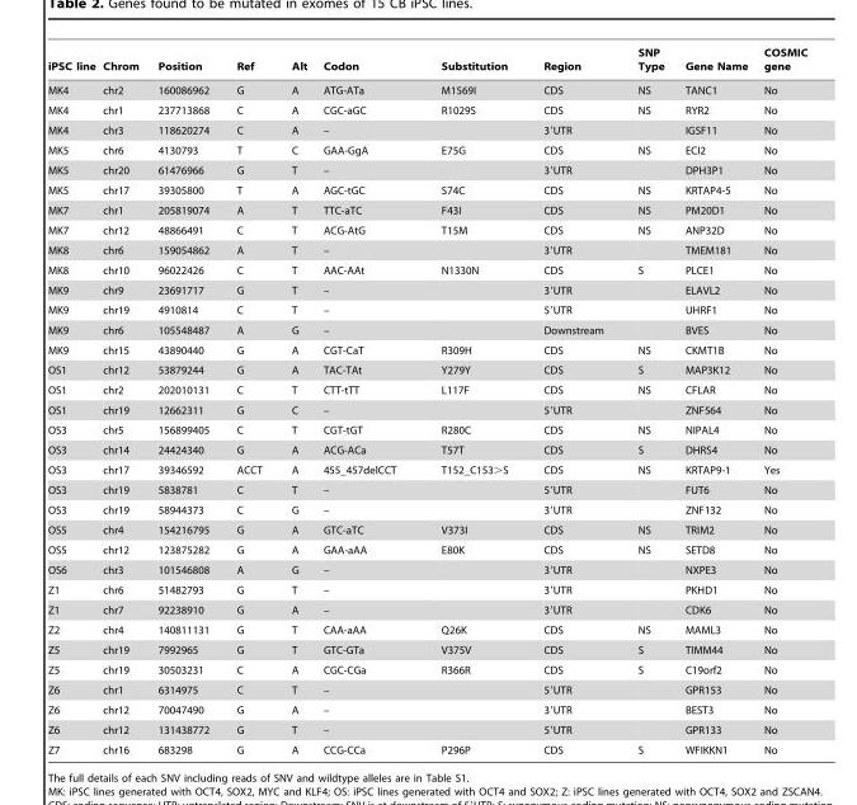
<table><thead><tr><td>iPSC line</td><td>Chrom</td><td>Position</td><td>Ref</td><td>Alt</td><td>Codon</td><td>Substitution</td><td>Region</td><td>SNP Type</td><td>Gene Name</td><td>COSMIC gene</td></tr></thead><tbody><tr><td>MK4</td><td>chr2</td><td>160086962</td><td>G</td><td>A</td><td>ATG-ATa</td><td>M1569I</td><td>CDS</td><td>NS</td><td>TANC1</td><td>No</td></tr><tr><td>MK4</td><td>chr1</td><td>237713868</td><td>C</td><td>A</td><td>CGC-aGC</td><td>R1029S</td><td>CDS</td><td>NS</td><td>RYR2</td><td>No</td></tr><tr><td>MK4</td><td>chr3</td><td>118620274</td><td>C</td><td>A</td><td>–</td><td></td><td>3′UTR</td><td></td><td>IGSF11</td><td>No</td></tr><tr><td>MK5</td><td>chr6</td><td>4130793</td><td>T</td><td>C</td><td>GAA-GgA</td><td>E75G</td><td>CDS</td><td>NS</td><td>ECI2</td><td>No</td></tr><tr><td>MK5</td><td>chr20</td><td>61476966</td><td>G</td><td>T</td><td>–</td><td></td><td>3′UTR</td><td></td><td>DPH3P1</td><td>No</td></tr><tr><td>MK5</td><td>chr17</td><td>39305800</td><td>T</td><td>A</td><td>AGC-tGC</td><td>S74C</td><td>CDS</td><td>NS</td><td>KRTAP4-5</td><td>No</td></tr><tr><td>MK7</td><td>chr1</td><td>205819074</td><td>A</td><td>T</td><td>TTC-aTC</td><td>F43I</td><td>CDS</td><td>NS</td><td>PM20D1</td><td>No</td></tr><tr><td>MK7</td><td>chr12</td><td>48866491</td><td>C</td><td>T</td><td>ACG-AtG</td><td>T15M</td><td>CDS</td><td>NS</td><td>ANP32D</td><td>No</td></tr><tr><td>MK8</td><td>chr6</td><td>159054862</td><td>A</td><td>T</td><td>–</td><td></td><td>3′UTR</td><td></td><td>TMEM181</td><td>No</td></tr><tr><td>MK8</td><td>chr10</td><td>96022426</td><td>C</td><td>T</td><td>AAC-AAt</td><td>N1330N</td><td>CDS</td><td>S</td><td>PLCE1</td><td>No</td></tr><tr><td>MK9</td><td>chr9</td><td>23691717</td><td>G</td><td>T</td><td>–</td><td></td><td>3′UTR</td><td></td><td>ELAVL2</td><td>No</td></tr><tr><td>MK9</td><td>chr19</td><td>4910814</td><td>C</td><td>T</td><td>–</td><td></td><td>5′UTR</td><td></td><td>UHRF1</td><td>No</td></tr><tr><td>MK9</td><td>chr6</td><td>105548487</td><td>A</td><td>G</td><td>–</td><td></td><td>Downstream</td><td></td><td>BVES</td><td>No</td></tr><tr><td>MK9</td><td>chr15</td><td>43890440</td><td>G</td><td>A</td><td>CGT-CaT</td><td>R309H</td><td>CDS</td><td>NS</td><td>CKMT1B</td><td>No</td></tr><tr><td>OS1</td><td>chr12</td><td>53879244</td><td>G</td><td>A</td><td>TAC-TAt</td><td>Y279Y</td><td>CDS</td><td>S</td><td>MAP3K12</td><td>No</td></tr><tr><td>OS1</td><td>chr2</td><td>202010131</td><td>C</td><td>T</td><td>CTT-tTT</td><td>L117F</td><td>CDS</td><td>NS</td><td>CFLAR</td><td>No</td></tr><tr><td>OS1</td><td>chr19</td><td>12662311</td><td>G</td><td>C</td><td>–</td><td></td><td>5′UTR</td><td></td><td>ZNF564</td><td>No</td></tr><tr><td>OS3</td><td>chr5</td><td>156899405</td><td>C</td><td>T</td><td>CGT-tGT</td><td>R280C</td><td>CDS</td><td>NS</td><td>NIPAL4</td><td>No</td></tr><tr><td>OS3</td><td>chr14</td><td>24424340</td><td>G</td><td>A</td><td>ACG-ACa</td><td>T57T</td><td>CDS</td><td>S</td><td>DHRS4</td><td>No</td></tr><tr><td>OS3</td><td>chr17</td><td>39346592</td><td>ACCT</td><td>A</td><td>455_457delCCT</td><td>T152_C153&gt;S</td><td>CDS</td><td>NS</td><td>KRTAP9-1</td><td>Yes</td></tr><tr><td>OS3</td><td>chr19</td><td>5838781</td><td>C</td><td>T</td><td>–</td><td></td><td>5′UTR</td><td></td><td>FUT6</td><td>No</td></tr><tr><td>OS3</td><td>chr19</td><td>58944373</td><td>C</td><td>G</td><td>–</td><td></td><td>3′UTR</td><td></td><td>ZNF132</td><td>No</td></tr><tr><td>OS5</td><td>chr4</td><td>154216795</td><td>G</td><td>A</td><td>GTC-aTC</td><td>V373I</td><td>CDS</td><td>NS</td><td>TRIM2</td><td>No</td></tr><tr><td>OS5</td><td>chr12</td><td>123875282</td><td>G</td><td>A</td><td>GAA-aAA</td><td>E80K</td><td>CDS</td><td>NS</td><td>SETD8</td><td>No</td></tr><tr><td>OS6</td><td>chr3</td><td>101546808</td><td>A</td><td>G</td><td>–</td><td></td><td>3′UTR</td><td></td><td>NXPE3</td><td>No</td></tr><tr><td>Z1</td><td>chr6</td><td>51482793</td><td>G</td><td>T</td><td>–</td><td></td><td>3′UTR</td><td></td><td>PKHD1</td><td>No</td></tr><tr><td>Z1</td><td>chr7</td><td>92238910</td><td>G</td><td>A</td><td>–</td><td></td><td>3′UTR</td><td></td><td>CDK6</td><td>No</td></tr><tr><td>Z2</td><td>chr4</td><td>140811131</td><td>G</td><td>T</td><td>CAA-aAA</td><td>Q26K</td><td>CDS</td><td>NS</td><td>MAML3</td><td>No</td></tr><tr><td>Z5</td><td>chr19</td><td>7992965</td><td>G</td><td>T</td><td>GTC-GTa</td><td>V375V</td><td>CDS</td><td>S</td><td>TIMM44</td><td>No</td></tr><tr><td>Z5</td><td>chr19</td><td>30503231</td><td>C</td><td>A</td><td>CGC-CGa</td><td>R366R</td><td>CDS</td><td>S</td><td>C19orf2</td><td>No</td></tr><tr><td>Z6</td><td>chr1</td><td>6314975</td><td>C</td><td>T</td><td>–</td><td></td><td>5′UTR</td><td></td><td>GPR153</td><td>No</td></tr><tr><td>Z6</td><td>chr12</td><td>70047490</td><td>G</td><td>A</td><td>–</td><td></td><td>3′UTR</td><td></td><td>BEST3</td><td>No</td></tr><tr><td>Z6</td><td>chr12</td><td>131438772</td><td>G</td><td>T</td><td>–</td><td></td><td>5′UTR</td><td></td><td>GPR133</td><td>No</td></tr><tr><td>Z7</td><td>chr16</td><td>683298</td><td>G</td><td>A</td><td>CCG-CCa</td><td>P296P</td><td>CDS</td><td>S</td><td>WFIKKN1</td><td>No</td></tr></tbody></table>